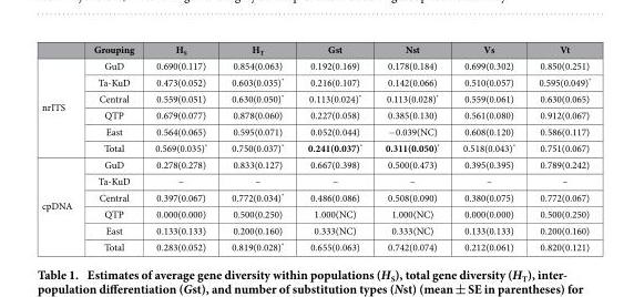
<table><thead><tr><td></td><td>Grouping</td><td>H<sub>S</sub></td><td>H<sub>T</sub></td><td>Gst</td><td>Nst</td><td>Vs</td><td>Vt</td></tr></thead><tbody><tr><td rowspan="6">nrITS</td><td>GuD</td><td>0.690(0.117)</td><td>0.854(0.063)</td><td>0.192(0.169)</td><td>0.178(0.184)</td><td>0.699(0.302)</td><td>0.850(0.251)</td></tr><tr><td>Ta-KuD</td><td>0.473(0.052)</td><td>0.603(0.035)*</td><td>0.216(0.107)</td><td>0.142(0.066)</td><td>0.510(0.057)</td><td>0.595(0.049)*</td></tr><tr><td>Central</td><td>0.559(0.051)</td><td>0.630(0.050)*</td><td>0.113(0.024)*</td><td>0.113(0.028)*</td><td>0.559(0.061)</td><td>0.630(0.065)</td></tr><tr><td>QTP</td><td>0.679(0.077)</td><td>0.878(0.060)</td><td>0.227(0.058)</td><td>0.385(0.130)</td><td>0.561(0.080)</td><td>0.912(0.067)</td></tr><tr><td>East</td><td>0.564(0.065)</td><td>0.595(0.071)</td><td>0.052(0.044)</td><td>− 0.039(NC)</td><td>0.608(0.120)</td><td>0.586(0.117)</td></tr><tr><td>Total</td><td>0.569(0.035)*</td><td>0.750(0.037)*</td><td>0.241(0.037)*</td><td>0.311(0.050)*</td><td>0.518(0.043)*</td><td>0.751(0.067)</td></tr><tr><td rowspan="6">cpDNA</td><td>GuD</td><td>0.278(0.278)</td><td>0.833(0.127)</td><td>0.667(0.398)</td><td>0.500(0.473)</td><td>0.395(0.395)</td><td>0.789(0.242)</td></tr><tr><td>Ta-KuD</td><td>–</td><td>–</td><td>–</td><td>–</td><td>–</td><td>–</td></tr><tr><td>Central</td><td>0.397(0.067)</td><td>0.772(0.034)*</td><td>0.486(0.086)</td><td>0.508(0.090)</td><td>0.380(0.075)</td><td>0.772(0.067)</td></tr><tr><td>QTP</td><td>0.000(0.000)</td><td>0.500(0.250)</td><td>1.000(NC)</td><td>1.000(NC)</td><td>0.000(0.000)</td><td>0.500(0.250)</td></tr><tr><td>East</td><td>0.133(0.133)</td><td>0.200(0.160)</td><td>0.333(NC)</td><td>0.333(NC)</td><td>0.133(0.133)</td><td>0.200(0.160)</td></tr><tr><td>Total</td><td>0.283(0.052)</td><td>0.819(0.028)*</td><td>0.655(0.063)</td><td>0.742(0.074)</td><td>0.212(0.061)</td><td>0.820(0.121)</td></tr></tbody></table>